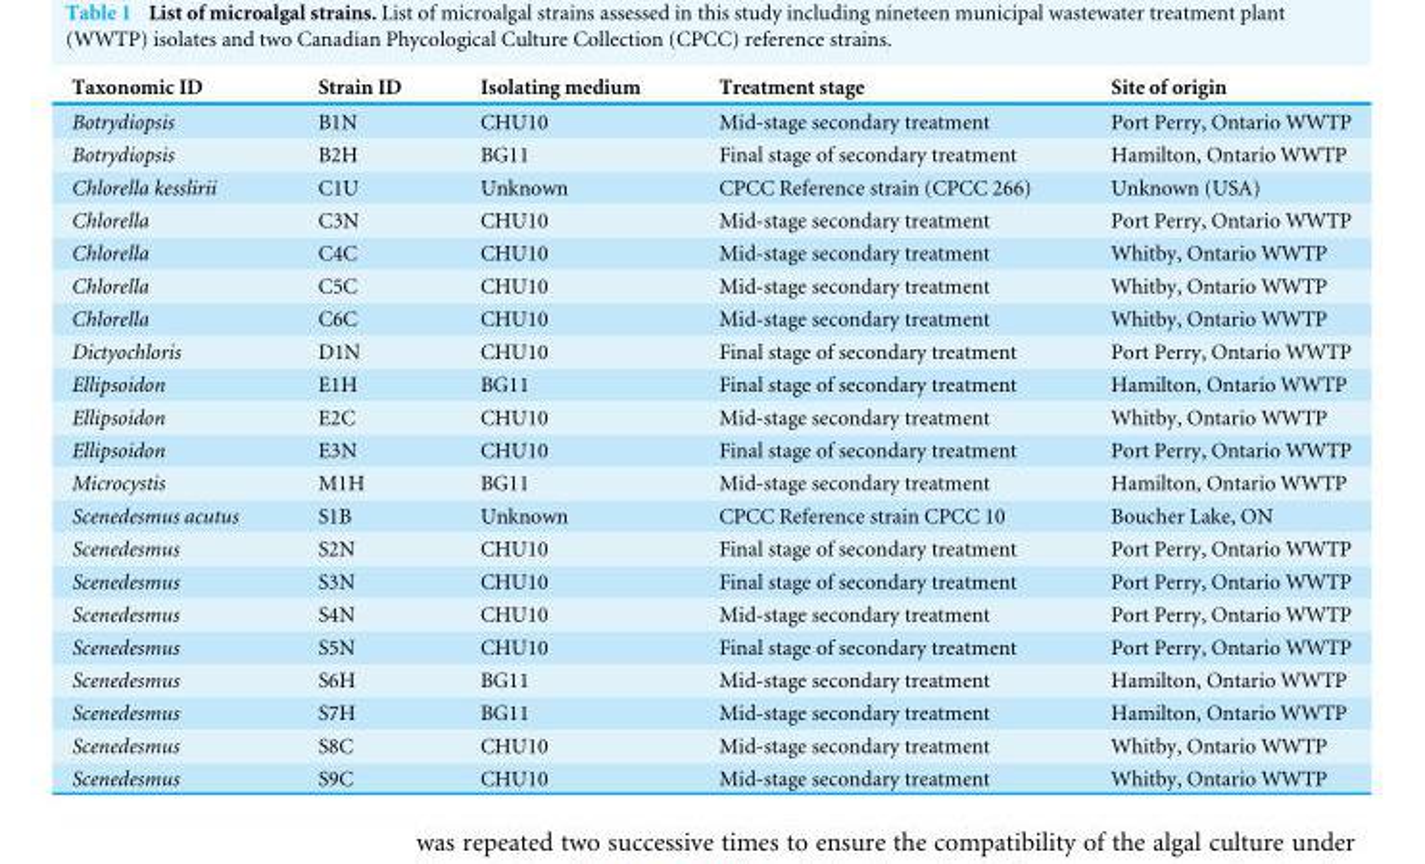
<table><thead><tr><td>Taxonomic ID</td><td>Strain ID</td><td>Isolating medium</td><td>Treatment stage</td><td>Site of origin</td></tr></thead><tbody><tr><td>Botrydiopsis</td><td>B1N</td><td>CHU10</td><td>Mid-stage secondary treatment</td><td>Port Perry, Ontario WWTP</td></tr><tr><td>Botrydiopsis</td><td>B2H</td><td>BG11</td><td>Final stage of secondary treatment</td><td>Hamilton, Ontario WWTP</td></tr><tr><td>Chlorella kesslirii</td><td>C1U</td><td>Unknown</td><td>CPCC Reference strain (CPCC 266)</td><td>Unknown (USA)</td></tr><tr><td>Chlorella</td><td>C3N</td><td>CHU10</td><td>Mid-stage secondary treatment</td><td>Port Perry, Ontario WWTP</td></tr><tr><td>Chlorella</td><td>C4C</td><td>CHU10</td><td>Mid-stage secondary treatment</td><td>Whitby, Ontario WWTP</td></tr><tr><td>Chlorella</td><td>C5C</td><td>CHU10</td><td>Mid-stage secondary treatment</td><td>Whitby, Ontario WWTP</td></tr><tr><td>Chlorella</td><td>C6C</td><td>CHU10</td><td>Mid-stage secondary treatment</td><td>Whitby, Ontario WWTP</td></tr><tr><td>Dictyochloris</td><td>D1N</td><td>CHU10</td><td>Final stage of secondary treatment</td><td>Port Perry, Ontario WWTP</td></tr><tr><td>Ellipsoidon</td><td>E1H</td><td>BG11</td><td>Final stage of secondary treatment</td><td>Hamilton, Ontario WWTP</td></tr><tr><td>Ellipsoidon</td><td>E2C</td><td>CHU10</td><td>Mid-stage secondary treatment</td><td>Whitby, Ontario WWTP</td></tr><tr><td>Ellipsoidon</td><td>E3N</td><td>CHU10</td><td>Final stage of secondary treatment</td><td>Port Perry, Ontario WWTP</td></tr><tr><td>Microcystis</td><td>M1H</td><td>BG11</td><td>Mid-stage secondary treatment</td><td>Hamilton, Ontario WWTP</td></tr><tr><td>Scenedesmus acutus</td><td>S1B</td><td>Unknown</td><td>CPCC Reference strain CPCC 10</td><td>Boucher Lake, ON</td></tr><tr><td>Scenedesmus</td><td>S2N</td><td>CHU10</td><td>Final stage of secondary treatment</td><td>Port Perry, Ontario WWTP</td></tr><tr><td>Scenedesmus</td><td>S3N</td><td>CHU10</td><td>Final stage of secondary treatment</td><td>Port Perry, Ontario WWTP</td></tr><tr><td>Scenedesmus</td><td>S4N</td><td>CHU10</td><td>Mid-stage secondary treatment</td><td>Port Perry, Ontario WWTP</td></tr><tr><td>Scenedesmus</td><td>S5N</td><td>CHU10</td><td>Final stage of secondary treatment</td><td>Port Perry, Ontario WWTP</td></tr><tr><td>Scenedesmus</td><td>S6H</td><td>BG11</td><td>Mid-stage secondary treatment</td><td>Hamilton, Ontario WWTP</td></tr><tr><td>Scenedesmus</td><td>S7H</td><td>BG11</td><td>Mid-stage secondary treatment</td><td>Hamilton, Ontario WWTP</td></tr><tr><td>Scenedesmus</td><td>S8C</td><td>CHU10</td><td>Mid-stage secondary treatment</td><td>Whitby, Ontario WWTP</td></tr><tr><td>Scenedesmus</td><td>S9C</td><td>CHU10</td><td>Mid-stage secondary treatment</td><td>Whitby, Ontario WWTP</td></tr></tbody></table>